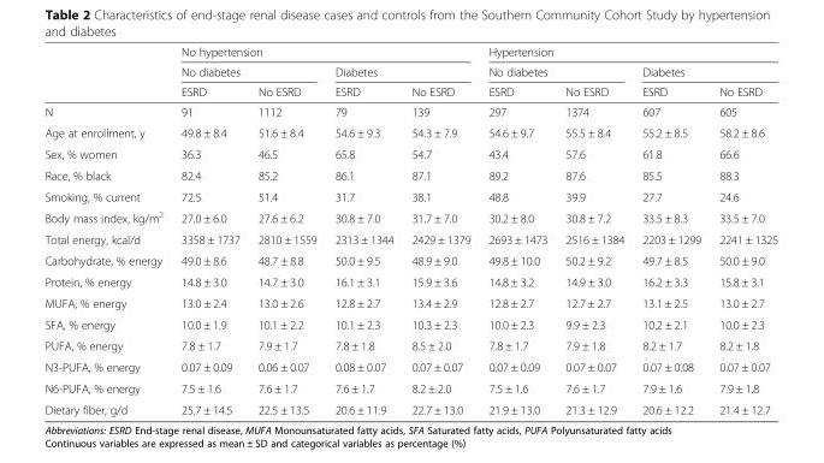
<table><thead><tr><td rowspan="3"></td><td colspan="4">No hypertension</td><td colspan="4">Hypertension</td></tr><tr><td colspan="2">No diabetes</td><td colspan="2">Diabetes</td><td colspan="2">No diabetes</td><td colspan="2">Diabetes</td></tr><tr><td>ESRD</td><td>No ESRD</td><td>ESRD</td><td>No ESRD</td><td>ESRD</td><td>No ESRD</td><td>ESRD</td><td>No ESRD</td></tr></thead><tbody><tr><td>N</td><td>91</td><td>1112</td><td>79</td><td>139</td><td>297</td><td>1374</td><td>607</td><td>605</td></tr><tr><td>Age at enrollment, y</td><td>49.8 ± 8.4</td><td>51.6 ± 8.4</td><td>54.6 ± 9.3</td><td>54.3 ± 7.9</td><td>54.6 ± 9.7</td><td>55.5 ± 8.4</td><td>55.2 ± 8.5</td><td>58.2 ± 8.6</td></tr><tr><td>Sex, % women</td><td>36.3</td><td>46.5</td><td>65.8</td><td>54.7</td><td>43.4</td><td>57.6</td><td>61.8</td><td>66.6</td></tr><tr><td>Race, % black</td><td>82.4</td><td>85.2</td><td>86.1</td><td>87.1</td><td>89.2</td><td>87.6</td><td>85.5</td><td>88.3</td></tr><tr><td>Smoking, % current</td><td>72.5</td><td>51.4</td><td>31.7</td><td>38.1</td><td>48.8</td><td>39.9</td><td>27.7</td><td>24.6</td></tr><tr><td>Body mass index, kg/m<sup>2</sup></td><td>27.0 ± 6.0</td><td>27.6 ± 6.2</td><td>30.8 ± 7.0</td><td>31.7 ± 7.0</td><td>30.2 ± 8.0</td><td>30.8 ± 7.2</td><td>33.5 ± 8.3</td><td>33.5 ± 7.0</td></tr><tr><td>Total energy, kcal/d</td><td>3358 ± 1737</td><td>2810 ± 1559</td><td>2313 ± 1344</td><td>2429 ± 1379</td><td>2693 ± 1473</td><td>2516 ± 1384</td><td>2203 ± 1299</td><td>2241 ± 1325</td></tr><tr><td>Carbohydrate, % energy</td><td>49.0 ± 8.6</td><td>48.7 ± 8.8</td><td>50.0 ± 9.5</td><td>48.9 ± 9.0</td><td>49.8 ± 10.0</td><td>50.2 ± 9.2</td><td>49.7 ± 8.5</td><td>50.0 ± 9.0</td></tr><tr><td>Protein, % energy</td><td>14.8 ± 3.0</td><td>14.7 ± 3.0</td><td>16.1 ± 3.1</td><td>15.9 ± 3.6</td><td>14.8 ± 3.2</td><td>14.9 ± 3.0</td><td>16.2 ± 3.3</td><td>15.8 ± 3.1</td></tr><tr><td>MUFA, % energy</td><td>13.0 ± 2.4</td><td>13.0 ± 2.6</td><td>12.8 ± 2.7</td><td>13.4 ± 2.9</td><td>12.8 ± 2.7</td><td>12.7 ± 2.7</td><td>13.1 ± 2.5</td><td>13.0 ± 2.7</td></tr><tr><td>SFA, % energy</td><td>10.0 ± 1.9</td><td>10.1 ± 2.2</td><td>10.1 ± 2.3</td><td>10.3 ± 2.3</td><td>10.0 ± 2.3</td><td>9.9 ± 2.3</td><td>10.2 ± 2.1</td><td>10.0 ± 2.3</td></tr><tr><td>PUFA, % energy</td><td>7.8 ± 1.7</td><td>7.9 ± 1.7</td><td>7.8 ± 1.8</td><td>8.5 ± 2.0</td><td>7.8 ± 1.7</td><td>7.9 ± 1.8</td><td>8.2 ± 1.7</td><td>8.2 ± 1.8</td></tr><tr><td>N3-PUFA, % energy</td><td>0.07 ± 0.09</td><td>0.06 ± 0.07</td><td>0.08 ± 0.07</td><td>0.07 ± 0.07</td><td>0.07 ± 0.09</td><td>0.07 ± 0.07</td><td>0.07 ± 0.08</td><td>0.07 ± 0.07</td></tr><tr><td>N6-PUFA, % energy</td><td>7.5 ± 1.6</td><td>7.6 ± 1.7</td><td>7.6 ± 1.7</td><td>8.2 ± 2.0</td><td>7.5 ± 1.6</td><td>7.6 ± 1.7</td><td>7.9 ± 1.6</td><td>7.9 ± 1.8</td></tr><tr><td>Dietary fiber, g/d</td><td>25.7 ± 14.5</td><td>22.5 ± 13.5</td><td>20.6 ± 11.9</td><td>22.7 ± 13.0</td><td>21.9 ± 13.0</td><td>21.3 ± 12.9</td><td>20.6 ± 12.2</td><td>21.4 ± 12.7</td></tr></tbody></table>